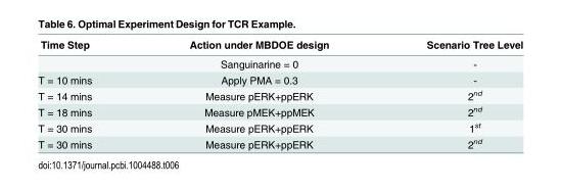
<table><thead><tr><td>Time Step</td><td>Action under MBDOE design</td><td>Scenario Tree Level</td></tr></thead><tbody><tr><td></td><td>Sanguinarine = 0</td><td>-</td></tr><tr><td>T = 10 mins</td><td>Apply PMA = 0.3</td><td>-</td></tr><tr><td>T = 14 mins</td><td>Measure pERK+ppERK</td><td>2<sup>nd</sup></td></tr><tr><td>T = 18 mins</td><td>Measure pMEK+ppMEK</td><td>2<sup>nd</sup></td></tr><tr><td>T = 30 mins</td><td>Measure pERK+ppERK</td><td>1<sup>st</sup></td></tr><tr><td>T = 30 mins</td><td>Measure pERK+ppERK</td><td>2<sup>nd</sup></td></tr></tbody></table>